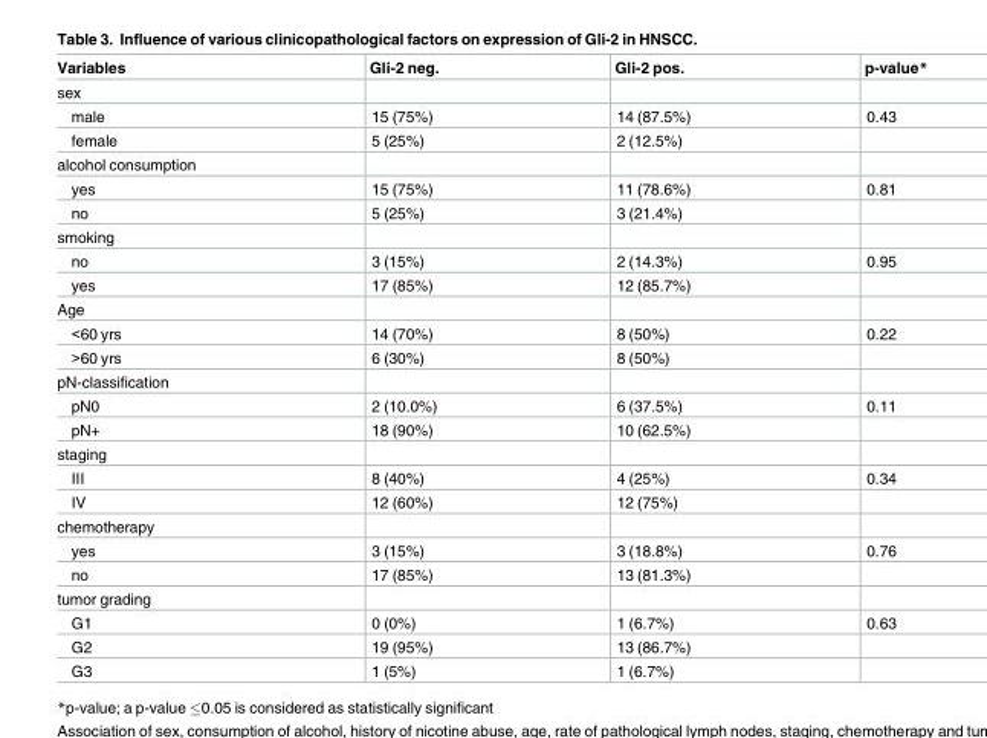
<table><thead><tr><td>Variables</td><td>Gli-2 neg.</td><td>Gli-2 pos.</td><td>p-value*</td></tr></thead><tbody><tr><td colspan="4">sex</td></tr><tr><td>male</td><td>15 (75%)</td><td>14 (87.5%)</td><td>0.43</td></tr><tr><td>female</td><td>5 (25%)</td><td>2 (12.5%)</td><td></td></tr><tr><td colspan="4">alcohol consumption</td></tr><tr><td>yes</td><td>15 (75%)</td><td>11 (78.6%)</td><td>0.81</td></tr><tr><td>no</td><td>5 (25%)</td><td>3 (21.4%)</td><td></td></tr><tr><td colspan="4">smoking</td></tr><tr><td>no</td><td>3 (15%)</td><td>2 (14.3%)</td><td>0.95</td></tr><tr><td>yes</td><td>17 (85%)</td><td>12 (85.7%)</td><td></td></tr><tr><td colspan="4">Age</td></tr><tr><td>&lt;60 yrs</td><td>14 (70%)</td><td>8 (50%)</td><td>0.22</td></tr><tr><td>&gt;60 yrs</td><td>6 (30%)</td><td>8 (50%)</td><td></td></tr><tr><td colspan="4">pN-classification</td></tr><tr><td>pN0</td><td>2 (10.0%)</td><td>6 (37.5%)</td><td>0.11</td></tr><tr><td>pN+</td><td>18 (90%)</td><td>10 (62.5%)</td><td></td></tr><tr><td colspan="4">staging</td></tr><tr><td>III</td><td>8 (40%)</td><td>4 (25%)</td><td>0.34</td></tr><tr><td>IV</td><td>12 (60%)</td><td>12 (75%)</td><td></td></tr><tr><td colspan="4">chemotherapy</td></tr><tr><td>yes</td><td>3 (15%)</td><td>3 (18.8%)</td><td>0.76</td></tr><tr><td>no</td><td>17 (85%)</td><td>13 (81.3%)</td><td></td></tr><tr><td colspan="4">tumor grading</td></tr><tr><td>G1</td><td>0 (0%)</td><td>1 (6.7%)</td><td>0.63</td></tr><tr><td>G2</td><td>19 (95%)</td><td>13 (86.7%)</td><td></td></tr><tr><td>G3</td><td>1 (5%)</td><td>1 (6.7%)</td><td></td></tr></tbody></table>